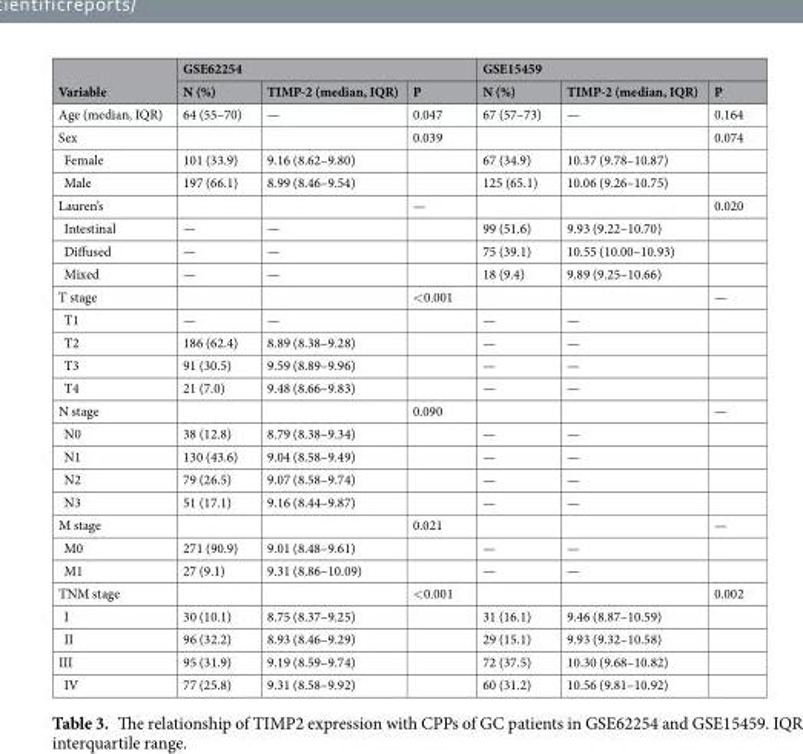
<table><thead><tr><td rowspan="2">Variable</td><td colspan="3">GSE62254</td><td colspan="3">GSE15459</td></tr><tr><td>N (%)</td><td>TIMP-2 (median, IQR)</td><td>P</td><td>N (%)</td><td>TIMP-2 (median, IQR)</td><td>P</td></tr></thead><tbody><tr><td>Age (median, IQR)</td><td>64 (55–70)</td><td>—</td><td>0.047</td><td>67 (57–73)</td><td>—</td><td>0.164</td></tr><tr><td>Sex</td><td></td><td></td><td>0.039</td><td></td><td></td><td>0.074</td></tr><tr><td>Female</td><td>101 (33.9)</td><td>9.16 (8.62–9.80)</td><td></td><td>67 (34.9)</td><td>10.37 (9.78–10.87)</td><td></td></tr><tr><td>Male</td><td>197 (66.1)</td><td>8.99 (8.46–9.54)</td><td></td><td>125 (65.1)</td><td>10.06 (9.26–10.75)</td><td></td></tr><tr><td>Lauren’s</td><td></td><td></td><td>—</td><td></td><td></td><td>0.020</td></tr><tr><td>Intestinal</td><td>—</td><td>—</td><td></td><td>99 (51.6)</td><td>9.93 (9.22–10.70)</td><td></td></tr><tr><td>Diffused</td><td>—</td><td>—</td><td></td><td>75 (39.1)</td><td>10.55 (10.00–10.93)</td><td></td></tr><tr><td>Mixed</td><td>—</td><td>—</td><td></td><td>18 (9.4)</td><td>9.89 (9.25–10.66)</td><td></td></tr><tr><td>T stage</td><td></td><td></td><td>&lt;0.001</td><td></td><td></td><td>—</td></tr><tr><td>T1</td><td>—</td><td>—</td><td></td><td>—</td><td>—</td><td></td></tr><tr><td>T2</td><td>186 (62.4)</td><td>8.89 (8.38–9.28)</td><td></td><td>—</td><td>—</td><td></td></tr><tr><td>T3</td><td>91 (30.5)</td><td>9.59 (8.89–9.96)</td><td></td><td>—</td><td>—</td><td></td></tr><tr><td>T4</td><td>21 (7.0)</td><td>9.48 (8.66–9.83)</td><td></td><td>—</td><td>—</td><td></td></tr><tr><td>N stage</td><td></td><td></td><td>0.090</td><td></td><td></td><td>—</td></tr><tr><td>N0</td><td>38 (12.8)</td><td>8.79 (8.38–9.34)</td><td></td><td>—</td><td>—</td><td></td></tr><tr><td>N1</td><td>130 (43.6)</td><td>9.04 (8.58–9.49)</td><td></td><td>—</td><td>—</td><td></td></tr><tr><td>N2</td><td>79 (26.5)</td><td>9.07 (8.58–9.74)</td><td></td><td>—</td><td>—</td><td></td></tr><tr><td>N3</td><td>51 (17.1)</td><td>9.16 (8.44–9.87)</td><td></td><td>—</td><td>—</td><td></td></tr><tr><td>M stage</td><td></td><td></td><td>0.021</td><td></td><td></td><td>—</td></tr><tr><td>M0</td><td>271 (90.9)</td><td>9.01 (8.48–9.61)</td><td></td><td>—</td><td>—</td><td></td></tr><tr><td>M1</td><td>27 (9.1)</td><td>9.31 (8.86–10.09)</td><td></td><td>—</td><td>—</td><td></td></tr><tr><td>TNM stage</td><td></td><td></td><td>&lt;0.001</td><td></td><td></td><td>0.002</td></tr><tr><td>I</td><td>30 (10.1)</td><td>8.75 (8.37–9.25)</td><td></td><td>31 (16.1)</td><td>9.46 (8.87–10.59)</td><td></td></tr><tr><td>II</td><td>96 (32.2)</td><td>8.93 (8.46–9.29)</td><td></td><td>29 (15.1)</td><td>9.93 (9.32–10.58)</td><td></td></tr><tr><td>III</td><td>95 (31.9)</td><td>9.19 (8.59–9.74)</td><td></td><td>72 (37.5)</td><td>10.30 (9.68–10.82)</td><td></td></tr><tr><td>IV</td><td>77 (25.8)</td><td>9.31 (8.58–9.92)</td><td></td><td>60 (31.2)</td><td>10.56 (9.81–10.92)</td><td></td></tr></tbody></table>